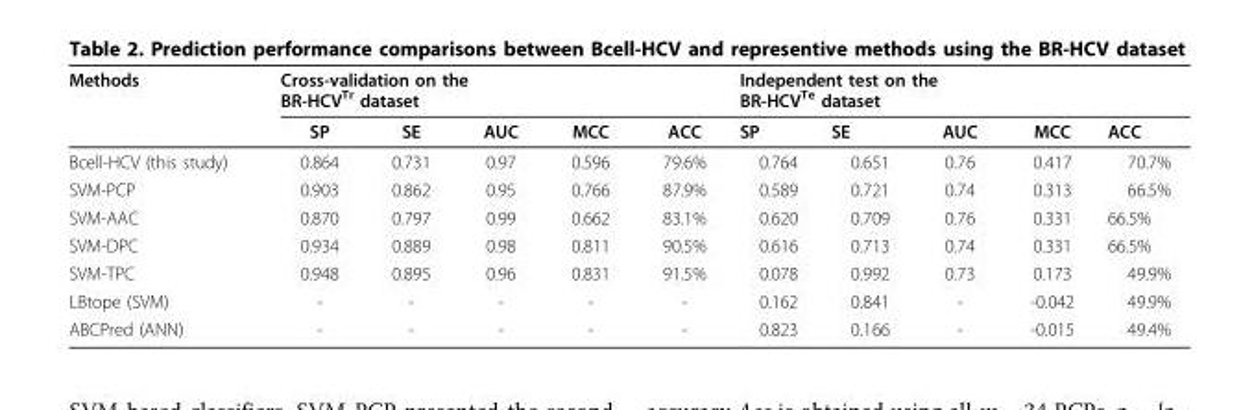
<table><thead><tr><td rowspan="2">Methods</td><td colspan="5">Cross-validation on the BR-HCV<sup>Tr</sup> dataset</td><td colspan="5">Independent test on the BR-HCV<sup>Te</sup> dataset</td></tr><tr><td>SP</td><td>SE</td><td>AUC</td><td>MCC</td><td>ACC</td><td>SP</td><td>SE</td><td>AUC</td><td>MCC</td><td>ACC</td></tr></thead><tbody><tr><td>Bcell-HCV (this study)</td><td>0.864</td><td>0.731</td><td>0.97</td><td>0.596</td><td>79.6%</td><td>0.764</td><td>0.651</td><td>0.76</td><td>0.417</td><td>70.7%</td></tr><tr><td>SVM-PCP</td><td>0.903</td><td>0.862</td><td>0.95</td><td>0.766</td><td>87.9%</td><td>0.589</td><td>0.721</td><td>0.74</td><td>0.313</td><td>66.5%</td></tr><tr><td>SVM-AAC</td><td>0.870</td><td>0.797</td><td>0.99</td><td>0.662</td><td>83.1%</td><td>0.620</td><td>0.709</td><td>0.76</td><td>0.331</td><td>66.5%</td></tr><tr><td>SVM-DPC</td><td>0.934</td><td>0.889</td><td>0.98</td><td>0.811</td><td>90.5%</td><td>0.616</td><td>0.713</td><td>0.74</td><td>0.331</td><td>66.5%</td></tr><tr><td>SVM-TPC</td><td>0.948</td><td>0.895</td><td>0.96</td><td>0.831</td><td>91.5%</td><td>0.078</td><td>0.992</td><td>0.73</td><td>0.173</td><td>49.9%</td></tr><tr><td>LBtope (SVM)</td><td>-</td><td>-</td><td>-</td><td>-</td><td>-</td><td>0.162</td><td>0.841</td><td>-</td><td>-0.042</td><td>49.9%</td></tr><tr><td>ABCPred (ANN)</td><td>-</td><td>-</td><td>-</td><td>-</td><td>-</td><td>0.823</td><td>0.166</td><td>-</td><td>-0.015</td><td>49.4%</td></tr></tbody></table>